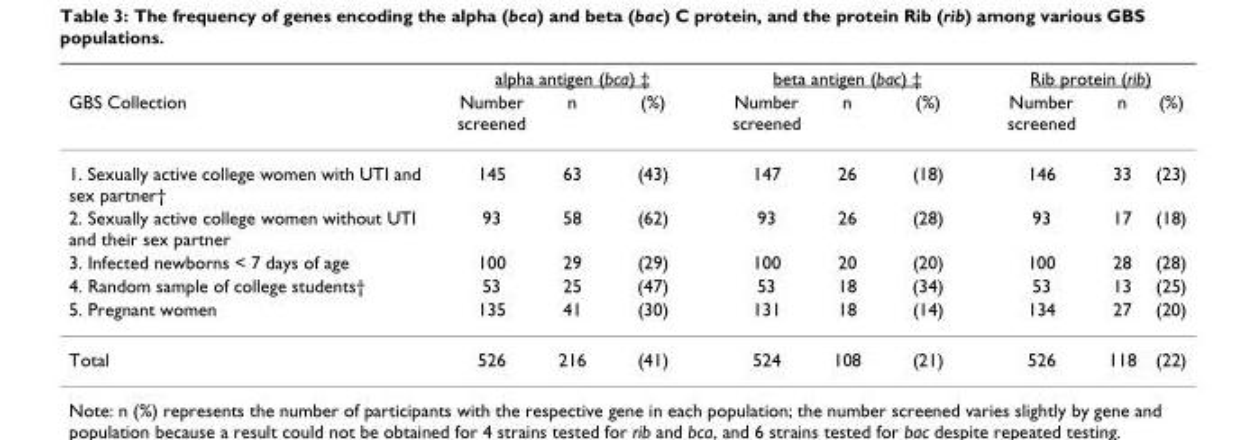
<table><thead><tr><td rowspan="2">GBS Collection</td><td colspan="3">alpha antigen (bca) ‡</td><td colspan="3">beta antigen (bac) ‡</td><td colspan="3">Rib protein (rib)</td></tr><tr><td>Number screened</td><td>n</td><td>(%)</td><td>Number screened</td><td>n</td><td>(%)</td><td>Number screened</td><td>n</td><td>(%)</td></tr></thead><tbody><tr><td>1. Sexually active college women with UTI and sex partner†</td><td>145</td><td>63</td><td>(43)</td><td>147</td><td>26</td><td>(18)</td><td>146</td><td>33</td><td>(23)</td></tr><tr><td>2. Sexually active college women without UTI and their sex partner</td><td>93</td><td>58</td><td>(62)</td><td>93</td><td>26</td><td>(28)</td><td>93</td><td>17</td><td>(18)</td></tr><tr><td>3. Infected newborns &lt; 7 days of age</td><td>100</td><td>29</td><td>(29)</td><td>100</td><td>20</td><td>(20)</td><td>100</td><td>28</td><td>(28)</td></tr><tr><td>4. Random sample of college students†</td><td>53</td><td>25</td><td>(47)</td><td>53</td><td>18</td><td>(34)</td><td>53</td><td>13</td><td>(25)</td></tr><tr><td>5. Pregnant women</td><td>135</td><td>41</td><td>(30)</td><td>131</td><td>18</td><td>(14)</td><td>134</td><td>27</td><td>(20)</td></tr><tr><td>Total</td><td>526</td><td>216</td><td>(41)</td><td>524</td><td>108</td><td>(21)</td><td>526</td><td>118</td><td>(22)</td></tr></tbody></table>